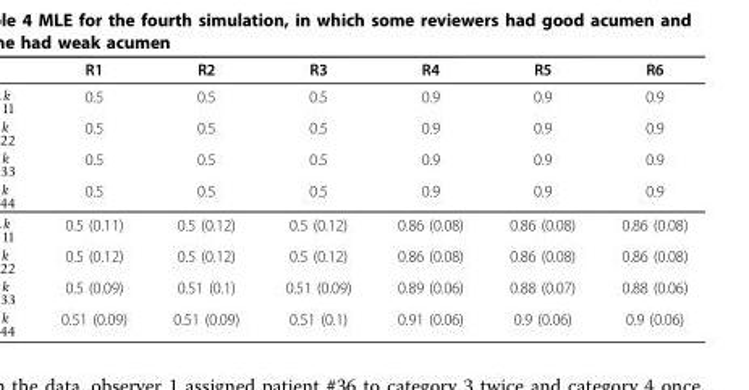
<table><thead><tr><td>R1</td><td>R2</td><td>R3</td><td>R4</td><td>R5</td><td>R6</td></tr></thead><tbody><tr><td>0.5</td><td>0.5</td><td>0.5</td><td>0.9</td><td>0.9</td><td>0.9</td></tr><tr><td>0.5</td><td>0.5</td><td>0.5</td><td>0.9</td><td>0.9</td><td>0.9</td></tr><tr><td>0.5</td><td>0.5</td><td>0.5</td><td>0.9</td><td>0.9</td><td>0.9</td></tr><tr><td>0.5</td><td>0.5</td><td>0.5</td><td>0.9</td><td>0.9</td><td>0.9</td></tr><tr><td>0.5 (0.11)</td><td>0.5 (0.12)</td><td>0.5 (0.12)</td><td>0.86 (0.08)</td><td>0.86 (0.08)</td><td>0.86 (0.08)</td></tr><tr><td>0.5 (0.12)</td><td>0.5 (0.12)</td><td>0.5 (0.12)</td><td>0.86 (0.08)</td><td>0.86 (0.08)</td><td>0.86 (0.08)</td></tr><tr><td>0.5 (0.09)</td><td>0.51 (0.1)</td><td>0.51 (0.09)</td><td>0.89 (0.06)</td><td>0.88 (0.07)</td><td>0.88 (0.06)</td></tr><tr><td>0.51 (0.09)</td><td>0.51 (0.09)</td><td>0.51 (0.1)</td><td>0.91 (0.06)</td><td>0.9 (0.06)</td><td>0.9 (0.06)</td></tr></tbody></table>